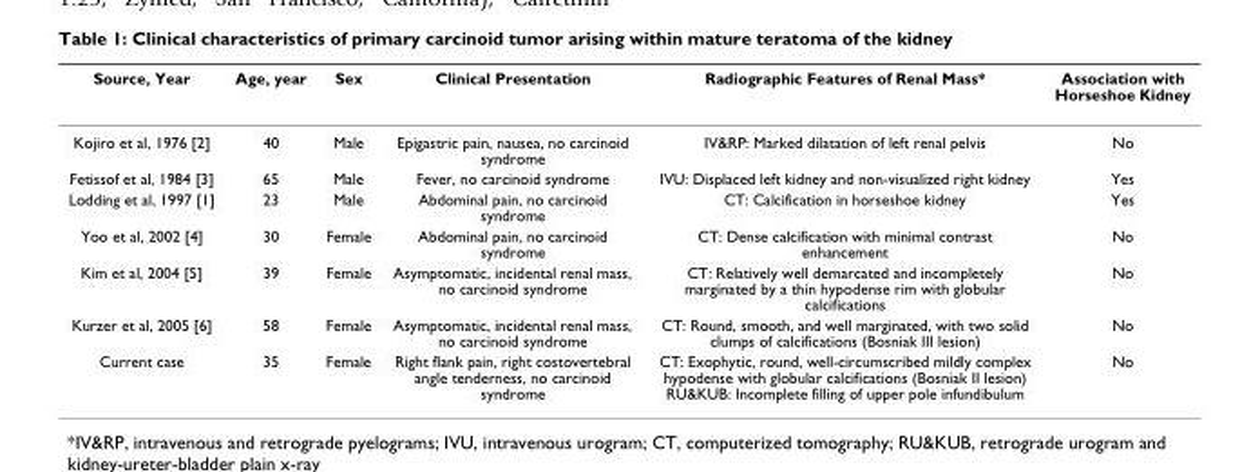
<table><thead><tr><td>Source, Year</td><td>Age, year</td><td>Sex</td><td>Clinical Presentation</td><td>Radiographic Features of Renal Mass*</td><td>Association with Horseshoe Kidney</td></tr></thead><tbody><tr><td>Kojiro et al, 1976 [2]</td><td>40</td><td>Male</td><td>Epigastric pain, nausea, no carcinoid syndrome</td><td>IV&amp;RP: Marked dilatation of left renal pelvis</td><td>No</td></tr><tr><td>Fetissof et al, 1984 [3]</td><td>65</td><td>Male</td><td>Fever, no carcinoid syndrome</td><td>IVU: Displaced left kidney and non-visualized right kidney</td><td>Yes</td></tr><tr><td>Lodding et al, 1997 [1]</td><td>23</td><td>Male</td><td>Abdominal pain, no carcinoid syndrome</td><td>CT: Calcification in horseshoe kidney</td><td>Yes</td></tr><tr><td>Yoo et al, 2002 [4]</td><td>30</td><td>Female</td><td>Abdominal pain, no carcinoid syndrome</td><td>CT: Dense calcification with minimal contrast enhancement</td><td>No</td></tr><tr><td>Kim et al, 2004 [5]</td><td>39</td><td>Female</td><td>Asymptomatic, incidental renal mass, no carcinoid syndrome</td><td>CT: Relatively well demarcated and incompletely marginated by a thin hypodense rim with globular calcifications</td><td>No</td></tr><tr><td>Kurzer et al, 2005 [6]</td><td>58</td><td>Female</td><td>Asymptomatic, incidental renal mass, no carcinoid syndrome</td><td>CT: Round, smooth, and well marginated, with two solid clumps of calcifications (Bosniak III lesion)</td><td>No</td></tr><tr><td>Current case</td><td>35</td><td>Female</td><td>Right flank pain, right costovertebral angle tenderness, no carcinoid syndrome</td><td>CT: Exophytic, round, well-circumscribed mildly complex hypodense with globular calcifications (Bosniak II lesion) RU&amp;KUB: Incomplete filling of upper pole infundibulum</td><td>No</td></tr></tbody></table>